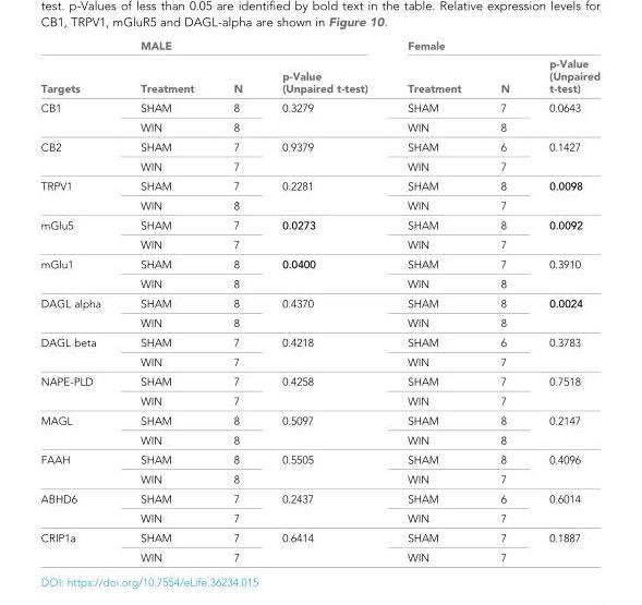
<table><thead><tr><td rowspan="2">Targets</td><td colspan="3">MALE</td><td colspan="3">Female</td></tr><tr><td>Treatment</td><td>N</td><td>p-Value (Unpaired t-test)</td><td>Treatment</td><td>N</td><td>p-Value (Unpaired t-test)</td></tr></thead><tbody><tr><td rowspan="2">CB1</td><td>SHAM</td><td>8</td><td rowspan="2">0.3279</td><td>SHAM</td><td>7</td><td rowspan="2">0.0643</td></tr><tr><td>WIN</td><td>8</td><td>WIN</td><td>8</td></tr><tr><td rowspan="2">CB2</td><td>SHAM</td><td>7</td><td rowspan="2">0.9379</td><td>SHAM</td><td>6</td><td rowspan="2">0.1427</td></tr><tr><td>WIN</td><td>7</td><td>WIN</td><td>7</td></tr><tr><td rowspan="2">TRPV1</td><td>SHAM</td><td>7</td><td rowspan="2">0.2281</td><td>SHAM</td><td>8</td><td rowspan="2">0.0098</td></tr><tr><td>WIN</td><td>8</td><td>WIN</td><td>7</td></tr><tr><td rowspan="2">mGlu5</td><td>SHAM</td><td>7</td><td rowspan="2">0.0273</td><td>SHAM</td><td>8</td><td rowspan="2">0.0092</td></tr><tr><td>WIN</td><td>7</td><td>WIN</td><td>7</td></tr><tr><td rowspan="2">mGlu1</td><td>SHAM</td><td>8</td><td rowspan="2">0.0400</td><td>SHAM</td><td>7</td><td rowspan="2">0.3910</td></tr><tr><td>WIN</td><td>8</td><td>WIN</td><td>8</td></tr><tr><td rowspan="2">DAGL alpha</td><td>SHAM</td><td>8</td><td rowspan="2">0.4370</td><td>SHAM</td><td>8</td><td rowspan="2">0.0024</td></tr><tr><td>WIN</td><td>8</td><td>WIN</td><td>8</td></tr><tr><td rowspan="2">DAGL beta</td><td>SHAM</td><td>7</td><td rowspan="2">0.4218</td><td>SHAM</td><td>6</td><td rowspan="2">0.3783</td></tr><tr><td>WIN</td><td>7</td><td>WIN</td><td>7</td></tr><tr><td rowspan="2">NAPE-PLD</td><td>SHAM</td><td>7</td><td rowspan="2">0.4258</td><td>SHAM</td><td>7</td><td rowspan="2">0.7518</td></tr><tr><td>WIN</td><td>7</td><td>WIN</td><td>7</td></tr><tr><td rowspan="2">MAGL</td><td>SHAM</td><td>8</td><td rowspan="2">0.5097</td><td>SHAM</td><td>8</td><td rowspan="2">0.2147</td></tr><tr><td>WIN</td><td>8</td><td>WIN</td><td>8</td></tr><tr><td rowspan="2">FAAH</td><td>SHAM</td><td>8</td><td rowspan="2">0.5505</td><td>SHAM</td><td>8</td><td rowspan="2">0.4096</td></tr><tr><td>WIN</td><td>8</td><td>WIN</td><td>7</td></tr><tr><td rowspan="2">ABHD6</td><td>SHAM</td><td>7</td><td rowspan="2">0.2437</td><td>SHAM</td><td>6</td><td rowspan="2">0.6014</td></tr><tr><td>WIN</td><td>7</td><td>WIN</td><td>7</td></tr><tr><td rowspan="2">CRIP1a</td><td>SHAM</td><td>7</td><td rowspan="2">0.6414</td><td>SHAM</td><td>7</td><td rowspan="2">0.1887</td></tr><tr><td>WIN</td><td>7</td><td>WIN</td><td>7</td></tr></tbody></table>